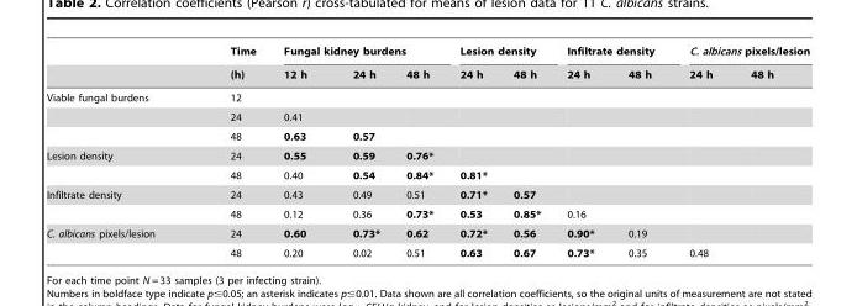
<table><thead><tr><td rowspan="2"></td><td rowspan="2">Time (h)</td><td colspan="3">Fungal kidney burdens</td><td colspan="2">Lesion density</td><td colspan="2">Infiltrate density</td><td colspan="2">C. albicans pixels/lesion</td></tr><tr><td>12 h</td><td>24 h</td><td>48 h</td><td>24 h</td><td>48 h</td><td>24 h</td><td>48 h</td><td>24 h</td><td>48 h</td></tr></thead><tbody><tr><td rowspan="3">Viable fungal burdens</td><td>12</td><td></td><td></td><td></td><td></td><td></td><td></td><td></td><td></td><td></td></tr><tr><td>24</td><td>0.41</td><td></td><td></td><td></td><td></td><td></td><td></td><td></td><td></td></tr><tr><td>48</td><td>0.63</td><td>0.57</td><td></td><td></td><td></td><td></td><td></td><td></td><td></td></tr><tr><td rowspan="2">Lesion density</td><td>24</td><td>0.55</td><td>0.59</td><td>0.76*</td><td></td><td></td><td></td><td></td><td></td><td></td></tr><tr><td>48</td><td>0.40</td><td>0.54</td><td>0.84*</td><td>0.81*</td><td></td><td></td><td></td><td></td><td></td></tr><tr><td rowspan="2">Infiltrate density</td><td>24</td><td>0.43</td><td>0.49</td><td>0.51</td><td>0.71*</td><td>0.57</td><td></td><td></td><td></td><td></td></tr><tr><td>48</td><td>0.12</td><td>0.36</td><td>0.73*</td><td>0.53</td><td>0.85*</td><td>0.16</td><td></td><td></td><td></td></tr><tr><td rowspan="2">C. albicans pixels/lesion</td><td>24</td><td>0.60</td><td>0.73*</td><td>0.62</td><td>0.72*</td><td>0.56</td><td>0.90*</td><td>0.19</td><td></td><td></td></tr><tr><td>48</td><td>0.20</td><td>0.02</td><td>0.51</td><td>0.63</td><td>0.67</td><td>0.73*</td><td>0.35</td><td>0.48</td><td></td></tr></tbody></table>